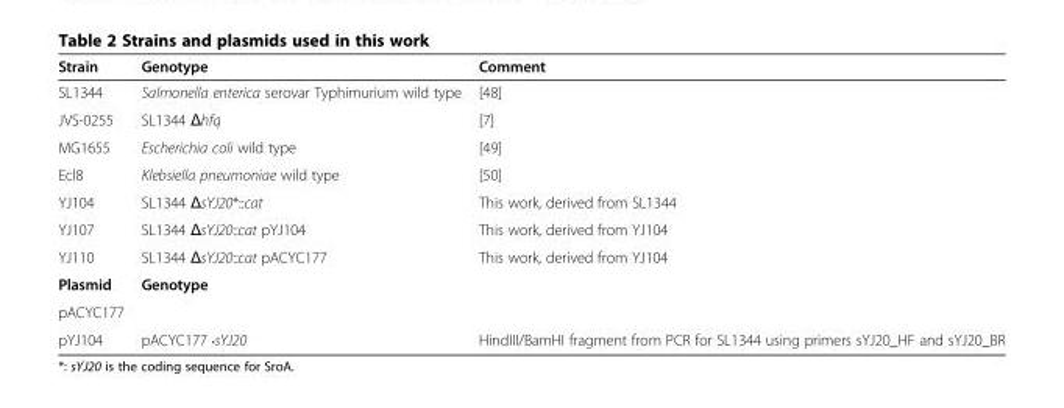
<table><thead><tr><td>Strain</td><td>Genotype</td><td>Comment</td></tr></thead><tbody><tr><td>SL1344</td><td>Salmonella enterica serovar Typhimurium wild type</td><td>[48]</td></tr><tr><td>JVS-0255</td><td>SL1344 Δhfq</td><td>[7]</td></tr><tr><td>MG1655</td><td>Escherichia coli wild type</td><td>[49]</td></tr><tr><td>Ecl8</td><td>Klebsiella pneumoniae wild type</td><td>[50]</td></tr><tr><td>YJ104</td><td>SL1344 ΔsYJ20*::cat</td><td>This work, derived from SL1344</td></tr><tr><td>YJ107</td><td>SL1344 ΔsYJ20::cat pYJ104</td><td>This work, derived from YJ104</td></tr><tr><td>YJ110</td><td>SL1344 ΔsYJ20::cat pACYC177</td><td>This work, derived from YJ104</td></tr><tr><td>Plasmid</td><td>Genotype</td><td></td></tr><tr><td colspan="3">pACYC177</td></tr><tr><td>pYJ104</td><td>pACYC177 •sYJ20</td><td>HindIII/BamHI fragment from PCR for SL1344 using primers sYJ20_HF and sYJ20_BR</td></tr></tbody></table>